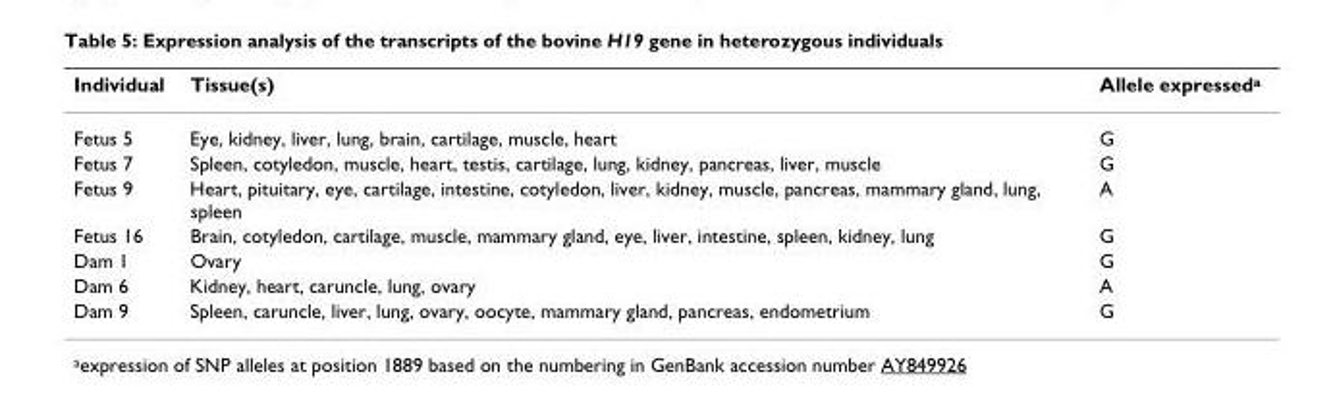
<table><thead><tr><td>Individual</td><td>Tissue(s)</td><td>Allele expressed<sup>a</sup></td></tr></thead><tbody><tr><td>Fetus 5</td><td>Eye, kidney, liver, lung, brain, cartilage, muscle, heart</td><td>G</td></tr><tr><td>Fetus 7</td><td>Spleen, cotyledon, muscle, heart, testis, cartilage, lung, kidney, pancreas, liver, muscle</td><td>G</td></tr><tr><td>Fetus 9</td><td>Heart, pituitary, eye, cartilage, intestine, cotyledon, liver, kidney, muscle, pancreas, mammary gland, lung, spleen</td><td>A</td></tr><tr><td>Fetus 16</td><td>Brain, cotyledon, cartilage, muscle, mammary gland, eye, liver, intestine, spleen, kidney, lung</td><td>G</td></tr><tr><td>Dam 1</td><td>Ovary</td><td>G</td></tr><tr><td>Dam 6</td><td>Kidney, heart, caruncle, lung, ovary</td><td>A</td></tr><tr><td>Dam 9</td><td>Spleen, caruncle, liver, lung, ovary, oocyte, mammary gland, pancreas, endometrium</td><td>G</td></tr></tbody></table>